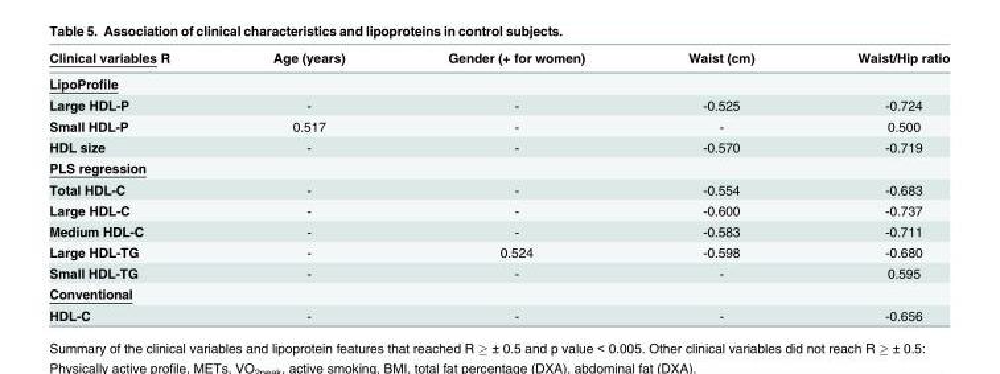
<table><thead><tr><td>Clinical variables R</td><td>Age (years)</td><td>Gender (+ for women)</td><td>Waist (cm)</td><td>Waist/Hip ratio</td></tr></thead><tbody><tr><td colspan="5">LipoProfile</td></tr><tr><td>Large HDL-P</td><td>-</td><td>-</td><td>-0.525</td><td>-0.724</td></tr><tr><td>Small HDL-P</td><td>0.517</td><td>-</td><td>-</td><td>0.500</td></tr><tr><td>HDL size</td><td>-</td><td>-</td><td>-0.570</td><td>-0.719</td></tr><tr><td colspan="5">PLS regression</td></tr><tr><td>Total HDL-C</td><td>-</td><td>-</td><td>-0.554</td><td>-0.683</td></tr><tr><td>Large HDL-C</td><td>-</td><td>-</td><td>-0.600</td><td>-0.737</td></tr><tr><td>Medium HDL-C</td><td>-</td><td>-</td><td>-0.583</td><td>-0.711</td></tr><tr><td>Large HDL-TG</td><td>-</td><td>0.524</td><td>-0.598</td><td>-0.680</td></tr><tr><td>Small HDL-TG</td><td>-</td><td>-</td><td>-</td><td>0.595</td></tr><tr><td colspan="5">Conventional</td></tr><tr><td>HDL-C</td><td>-</td><td>-</td><td>-</td><td>-0.656</td></tr></tbody></table>